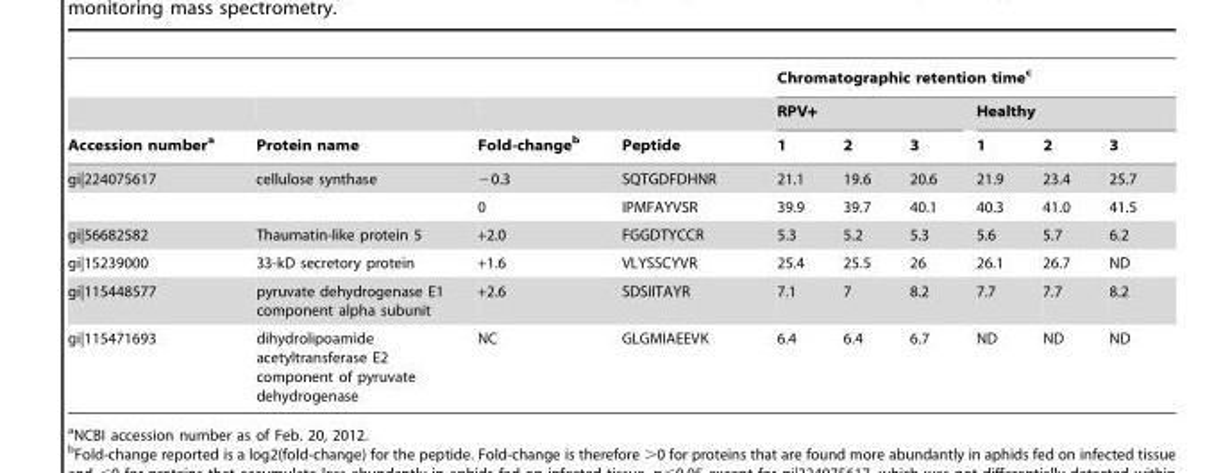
<table><thead><tr><td rowspan="3">Accession number<sup>a</sup></td><td rowspan="3">Protein name</td><td rowspan="3">Fold-change<sup>b</sup></td><td rowspan="3">Peptide</td><td colspan="6">Chromatographic retention time<sup>c</sup></td></tr><tr><td colspan="3">RPV+</td><td colspan="3">Healthy</td></tr><tr><td>1</td><td>2</td><td>3</td><td>1</td><td>2</td><td>3</td></tr></thead><tbody><tr><td rowspan="2">gi|224075617</td><td>cellulose synthase</td><td>−0.3</td><td>SQTGDFDHNR</td><td>21.1</td><td>19.6</td><td>20.6</td><td>21.9</td><td>23.4</td><td>25.7</td></tr><tr><td></td><td>0</td><td>IPMFAYVSR</td><td>39.9</td><td>39.7</td><td>40.1</td><td>40.3</td><td>41.0</td><td>41.5</td></tr><tr><td>gi|56682582</td><td>Thaumatin-like protein 5</td><td>+2.0</td><td>FGGDTYCCR</td><td>5.3</td><td>5.2</td><td>5.3</td><td>5.6</td><td>5.7</td><td>6.2</td></tr><tr><td>gi|15239000</td><td>33-kD secretory protein</td><td>+1.6</td><td>VLYSSCYVR</td><td>25.4</td><td>25.5</td><td>26</td><td>26.1</td><td>26.7</td><td>ND</td></tr><tr><td>gi|115448577</td><td>pyruvate dehydrogenase E1 component alpha subunit</td><td>+2.6</td><td>SDSIITAYR</td><td>7.1</td><td>7</td><td>8.2</td><td>7.7</td><td>7.7</td><td>8.2</td></tr><tr><td>gi|115471693</td><td>dihydrolipoamide acetyltransferase E2 component of pyruvate dehydrogenase</td><td>NC</td><td>GLGMIAEEVK</td><td>6.4</td><td>6.4</td><td>6.7</td><td>ND</td><td>ND</td><td>ND</td></tr></tbody></table>